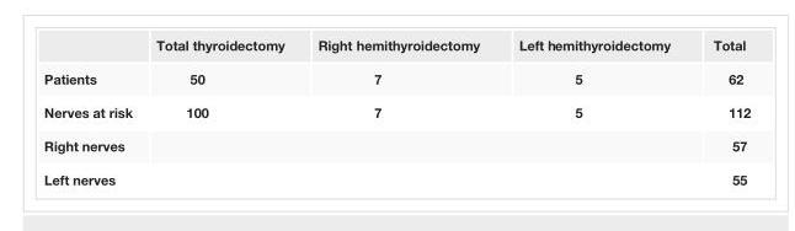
<table><thead><tr><td></td><td>Total thyroidectomy</td><td>Right hemithyroidectomy</td><td>Left hemithyroidectomy</td><td>Total</td></tr></thead><tbody><tr><td>Patients</td><td>50</td><td>7</td><td>5</td><td>62</td></tr><tr><td>Nerves at risk</td><td>100</td><td>7</td><td>5</td><td>112</td></tr><tr><td>Right nerves</td><td colspan="3"></td><td>57</td></tr><tr><td>Left nerves</td><td colspan="3"></td><td>55</td></tr></tbody></table>